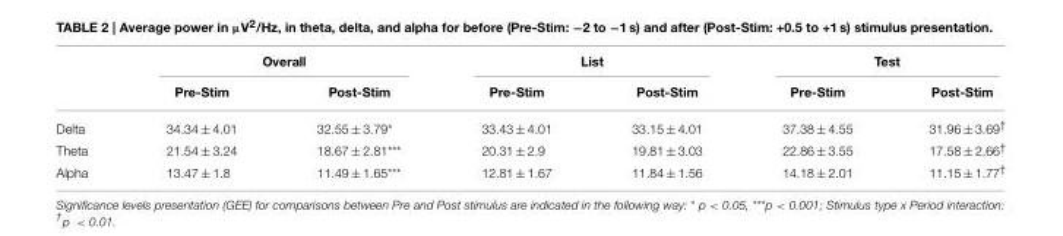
<table><thead><tr><td rowspan="2"></td><td colspan="2">Overall</td><td colspan="2">List</td><td colspan="2">Test</td></tr><tr><td>Pre-Stim</td><td>Post-Stim</td><td>Pre-Stim</td><td>Post-Stim</td><td>Pre-Stim</td><td>Post-Stim</td></tr></thead><tbody><tr><td>Delta</td><td>34.34 ± 4.01</td><td>32.55 ± 3.79*</td><td>33.43 ± 4.01</td><td>33.15 ± 4.01</td><td>37.38 ± 4.55</td><td>31.96 ± 3.69<sup>†</sup></td></tr><tr><td>Theta</td><td>21.54 ± 3.24</td><td>18.67 ± 2.81***</td><td>20.31 ± 2.9</td><td>19.81 ± 3.03</td><td>22.86 ± 3.55</td><td>17.58 ± 2.66<sup>†</sup></td></tr><tr><td>Alpha</td><td>13.47 ± 1.8</td><td>11.49 ± 1.65***</td><td>12.81 ± 1.67</td><td>11.84 ± 1.56</td><td>14.18 ± 2.01</td><td>11.15 ± 1.77<sup>†</sup></td></tr></tbody></table>